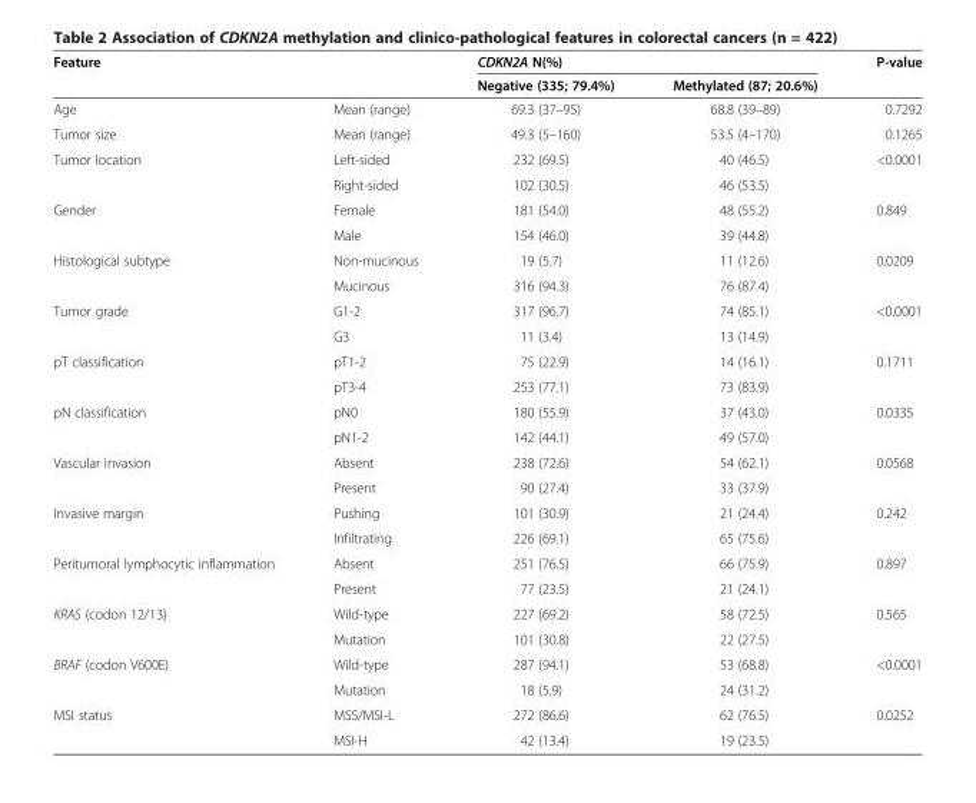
<table><thead><tr><td rowspan="2">Feature</td><td rowspan="2"></td><td colspan="2">CDKN2A N(%)</td><td rowspan="2">P-value</td></tr><tr><td>Negative (335; 79.4%)</td><td>Methylated (87; 20.6%)</td></tr></thead><tbody><tr><td>Age</td><td>Mean (range)</td><td>69.3 (37–95)</td><td>68.8 (39–89)</td><td>0.7292</td></tr><tr><td>Tumor size</td><td>Mean (range)</td><td>49.3 (5–160)</td><td>53.5 (4–170)</td><td>0.1265</td></tr><tr><td rowspan="2">Tumor location</td><td>Left-sided</td><td>232 (69.5)</td><td>40 (46.5)</td><td>&lt;0.0001</td></tr><tr><td>Right-sided</td><td>102 (30.5)</td><td>46 (53.5)</td><td></td></tr><tr><td rowspan="2">Gender</td><td>Female</td><td>181 (54.0)</td><td>48 (55.2)</td><td>0.849</td></tr><tr><td>Male</td><td>154 (46.0)</td><td>39 (44.8)</td><td></td></tr><tr><td rowspan="2">Histological subtype</td><td>Non-mucinous</td><td>19 (5.7)</td><td>11 (12.6)</td><td>0.0209</td></tr><tr><td>Mucinous</td><td>316 (94.3)</td><td>76 (87.4)</td><td></td></tr><tr><td rowspan="2">Tumor grade</td><td>G1-2</td><td>317 (96.7)</td><td>74 (85.1)</td><td>&lt;0.0001</td></tr><tr><td>G3</td><td>11 (3.4)</td><td>13 (14.9)</td><td></td></tr><tr><td rowspan="2">pT classification</td><td>pT1-2</td><td>75 (22.9)</td><td>14 (16.1)</td><td>0.1711</td></tr><tr><td>pT3-4</td><td>253 (77.1)</td><td>73 (83.9)</td><td></td></tr><tr><td rowspan="2">pN classification</td><td>pN0</td><td>180 (55.9)</td><td>37 (43.0)</td><td>0.0335</td></tr><tr><td>pN1-2</td><td>142 (44.1)</td><td>49 (57.0)</td><td></td></tr><tr><td rowspan="2">Vascular invasion</td><td>Absent</td><td>238 (72.6)</td><td>54 (62.1)</td><td>0.0568</td></tr><tr><td>Present</td><td>90 (27.4)</td><td>33 (37.9)</td><td></td></tr><tr><td rowspan="2">Invasive margin</td><td>Pushing</td><td>101 (30.9)</td><td>21 (24.4)</td><td>0.242</td></tr><tr><td>Infiltrating</td><td>226 (69.1)</td><td>65 (75.6)</td><td></td></tr><tr><td rowspan="2">Peritumoral lymphocytic inflammation</td><td>Absent</td><td>251 (76.5)</td><td>66 (75.9)</td><td>0.897</td></tr><tr><td>Present</td><td>77 (23.5)</td><td>21 (24.1)</td><td></td></tr><tr><td rowspan="2">KRAS (codon 12/13)</td><td>Wild-type</td><td>227 (69.2)</td><td>58 (72.5)</td><td>0.565</td></tr><tr><td>Mutation</td><td>101 (30.8)</td><td>22 (27.5)</td><td></td></tr><tr><td rowspan="2">BRAF (codon V600E)</td><td>Wild-type</td><td>287 (94.1)</td><td>53 (68.8)</td><td>&lt;0.0001</td></tr><tr><td>Mutation</td><td>18 (5.9)</td><td>24 (31.2)</td><td></td></tr><tr><td rowspan="2">MSI status</td><td>MSS/MSI-L</td><td>272 (86.6)</td><td>62 (76.5)</td><td>0.0252</td></tr><tr><td>MSI-H</td><td>42 (13.4)</td><td>19 (23.5)</td><td></td></tr></tbody></table>